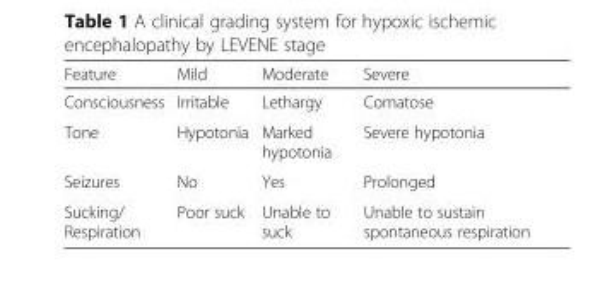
<table><thead><tr><td>Feature</td><td>Mild</td><td>Moderate</td><td>Severe</td></tr></thead><tbody><tr><td>Consciousness</td><td>Irritable</td><td>Lethargy</td><td>Comatose</td></tr><tr><td>Tone</td><td>Hypotonia</td><td>Marked hypotonia</td><td>Severe hypotonia</td></tr><tr><td>Seizures</td><td>No</td><td>Yes</td><td>Prolonged</td></tr><tr><td>Sucking/ Respiration</td><td>Poor suck</td><td>Unable to suck</td><td>Unable to sustain spontaneous respiration</td></tr></tbody></table>